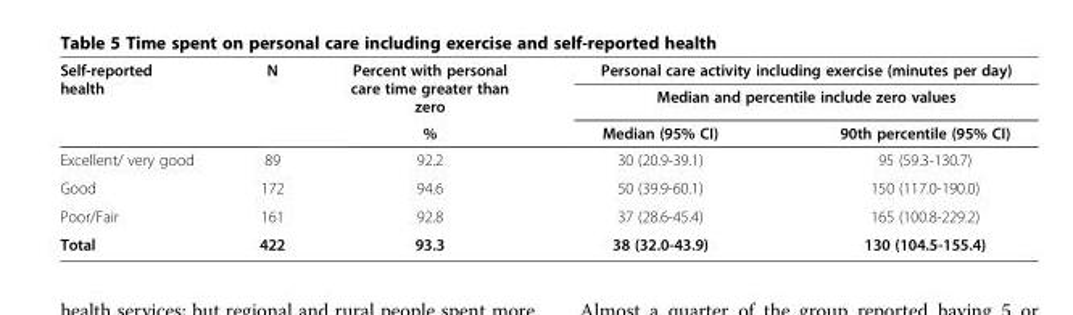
<table><thead><tr><td rowspan="3">Self-reported health</td><td rowspan="3">N</td><td rowspan="3">Percent with personal care time greater than zero %</td><td rowspan="2" colspan="2">Personal care activity including exercise (minutes per day) Median and percentile include zero values</td></tr><tr></tr><tr><td>Median (95% CI)</td><td>90th percentile (95% CI)</td></tr></thead><tbody><tr><td>Excellent/ very good</td><td>89</td><td>92.2</td><td>30 (20.9-39.1)</td><td>95 (59.3-130.7)</td></tr><tr><td>Good</td><td>172</td><td>94.6</td><td>50 (39.9-60.1)</td><td>150 (117.0-190.0)</td></tr><tr><td>Poor/Fair</td><td>161</td><td>92.8</td><td>37 (28.6-45.4)</td><td>165 (100.8-229.2)</td></tr><tr><td>Total</td><td>422</td><td>93.3</td><td>38 (32.0-43.9)</td><td>130 (104.5-155.4)</td></tr></tbody></table>